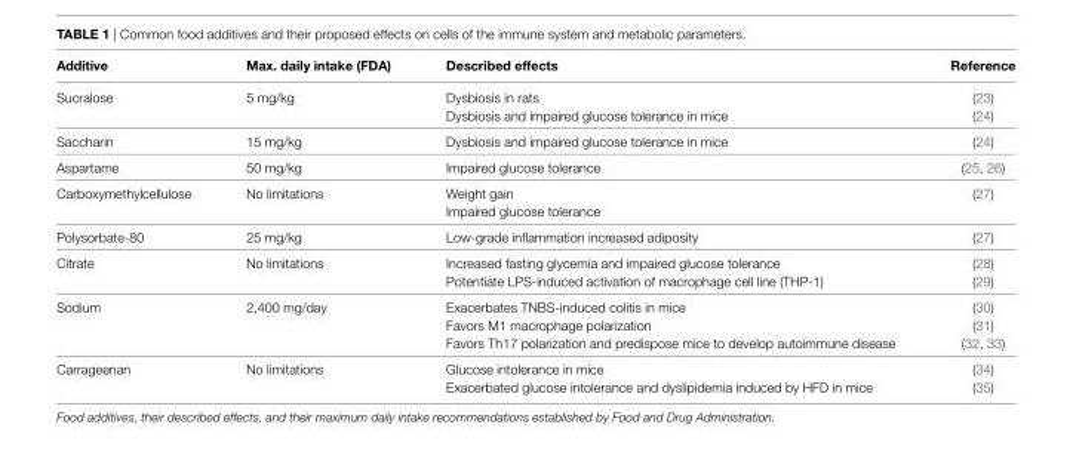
<table><thead><tr><td>Additive</td><td>Max. daily intake (FDA)</td><td>Described effects</td><td>Reference</td></tr></thead><tbody><tr><td>Sucralose</td><td>5 mg/kg</td><td>Dysbiosis in rats Dysbiosis and impaired glucose tolerance in mice</td><td>(23) (24)</td></tr><tr><td>Saccharin</td><td>15 mg/kg</td><td>Dysbiosis and impaired glucose tolerance in mice</td><td>(24)</td></tr><tr><td>Aspartame</td><td>50 mg/kg</td><td>Impaired glucose tolerance</td><td>(25, 26)</td></tr><tr><td>Carboxymethylcellulose</td><td>No limitations</td><td>Weight gain Impaired glucose tolerance</td><td>(27)</td></tr><tr><td>Polysorbate-80</td><td>25 mg/kg</td><td>Low-grade inflammation increased adiposity</td><td>(27)</td></tr><tr><td>Citrate</td><td>No limitations</td><td>Increased fasting glycemia and impaired glucose tolerance Potentiate LPS-induced activation of macrophage cell line (THP-1)</td><td>(28) (29)</td></tr><tr><td>Sodium</td><td>2,400 mg/day</td><td>Exacerbates TNBS-induced colitis in mice Favors M1 macrophage polarization Favors Th17 polarization and predispose mice to develop autoimmune disease</td><td>(30) (31) (32, 33)</td></tr><tr><td>Carrageenan</td><td>No limitations</td><td>Glucose intolerance in mice Exacerbated glucose intolerance and dyslipidemia induced by HFD in mice</td><td>(34) (35)</td></tr></tbody></table>